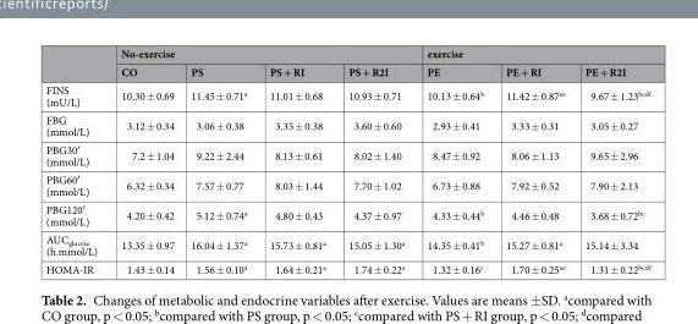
<table><thead><tr><td rowspan="2"></td><td colspan="4">No-exercise</td><td colspan="3">exercise</td></tr><tr><td>CO</td><td>PS</td><td>PS + RI</td><td>PS + R2I</td><td>PE</td><td>PE + RI</td><td>PE + R2I</td></tr></thead><tbody><tr><td>FINS (mU/L)</td><td>10.30 ± 0.69</td><td>11.45 ± 0.71<sup>a</sup></td><td>11.01 ± 0.68</td><td>10.93 ± 0.71</td><td>10.13 ± 0.64<sup>b</sup></td><td>11.42 ± 0.87<sup>ae</sup></td><td>9.67 ± 1.23<sup>bcdf</sup></td></tr><tr><td>FBG (mmol/L)</td><td>3.12 ± 0.34</td><td>3.06 ± 0.38</td><td>3.35 ± 0.38</td><td>3.60 ± 0.60</td><td>2.93 ± 0.41</td><td>3.33 ± 0.31</td><td>3.05 ± 0.27</td></tr><tr><td>PBG30′ (mmol/L)</td><td>7.2 ± 1.04</td><td>9.22 ± 2.44</td><td>8.13 ± 0.61</td><td>8.02 ± 1.40</td><td>8.47 ± 0.92</td><td>8.06 ± 1.13</td><td>9.65 ± 2.96</td></tr><tr><td>PBG60′ (mmol/L)</td><td>6.32 ± 0.34</td><td>7.57 ± 0.77</td><td>8.03 ± 1.44</td><td>7.70 ± 1.02</td><td>6.73 ± 0.88</td><td>7.92 ± 0.52</td><td>7.90 ± 2.13</td></tr><tr><td>PBG120′ (mmol/L)</td><td>4.20 ± 0.42</td><td>5.12 ± 0.74<sup>a</sup></td><td>4.80 ± 0.43</td><td>4.37 ± 0.97</td><td>4.33 ± 0.44<sup>b</sup></td><td>4.46 ± 0.48</td><td>3.68 ± 0.72<sup>bc</sup></td></tr><tr><td>AUC<sub>glucose</sub> (h.mmol/L)</td><td>13.35 ± 0.97</td><td>16.04 ± 1.37<sup>a</sup></td><td>15.73 ± 0.81<sup>a</sup></td><td>15.05 ± 1.30<sup>a</sup></td><td>14.35 ± 0.41<sup>b</sup></td><td>15.27 ± 0.81<sup>a</sup></td><td>15.14 ± 3.34</td></tr><tr><td>HOMA-IR</td><td>1.43 ± 0.14</td><td>1.56 ± 0.10<sup>a</sup></td><td>1.64 ± 0.21<sup>a</sup></td><td>1.74 ± 0.22<sup>a</sup></td><td>1.32 ± 0.16<sup>c</sup></td><td>1.70 ± 0.25<sup>ae</sup></td><td>1.31 ± 0.22<sup>bcdf</sup></td></tr></tbody></table>